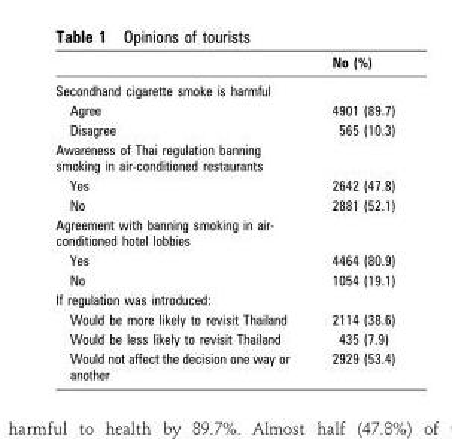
<table><thead><tr><td></td><td>No (%)</td></tr></thead><tbody><tr><td colspan="2">Secondhand cigarette smoke is harmful</td></tr><tr><td>Agree</td><td>4901 (89.7)</td></tr><tr><td>Disagree</td><td>565 (10.3)</td></tr><tr><td colspan="2">Awareness of Thai regulation banning smoking in air-conditioned restaurants</td></tr><tr><td>Yes</td><td>2642 (47.8)</td></tr><tr><td>No</td><td>2881 (52.1)</td></tr><tr><td colspan="2">Agreement with banning smoking in air- conditioned hotel lobbies</td></tr><tr><td>Yes</td><td>4464 (80.9)</td></tr><tr><td>No</td><td>1054 (19.1)</td></tr><tr><td colspan="2">If regulation was introduced:</td></tr><tr><td>Would be more likely to revisit Thailand</td><td>2114 (38.6)</td></tr><tr><td>Would be less likely to revisit Thailand</td><td>435 (7.9)</td></tr><tr><td>Would not affect the decision one way or another</td><td>2929 (53.4)</td></tr></tbody></table>